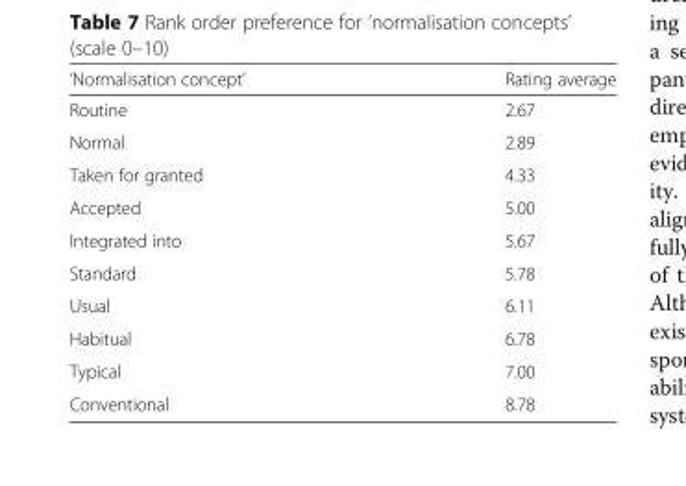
<table><thead><tr><td>‘Normalisation concept’</td><td>Rating average</td></tr></thead><tbody><tr><td>Routine</td><td>2.67</td></tr><tr><td>Normal</td><td>2.89</td></tr><tr><td>Taken for granted</td><td>4.33</td></tr><tr><td>Accepted</td><td>5.00</td></tr><tr><td>Integrated into</td><td>5.67</td></tr><tr><td>Standard</td><td>5.78</td></tr><tr><td>Usual</td><td>6.11</td></tr><tr><td>Habitual</td><td>6.78</td></tr><tr><td>Typical</td><td>7.00</td></tr><tr><td>Conventional</td><td>8.78</td></tr></tbody></table>